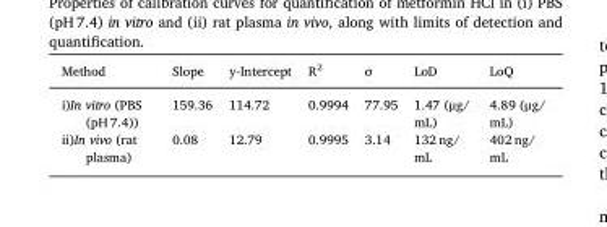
<table><thead><tr><td>Method</td><td>Slope</td><td>y-Intercept</td><td>R<sup>2</sup></td><td>σ</td><td>LoD</td><td>LoQ</td></tr></thead><tbody><tr><td>i)In vitro (PBS (pH 7.4))</td><td>159.36</td><td>114.72</td><td>0.9994</td><td>77.95</td><td>1.47 (μg/ mL)</td><td>4.89 (μg/ mL)</td></tr><tr><td>ii)In vivo (rat plasma)</td><td>0.08</td><td>12.79</td><td>0.9995</td><td>3.14</td><td>132 ng/ mL</td><td>402 ng/ mL</td></tr></tbody></table>